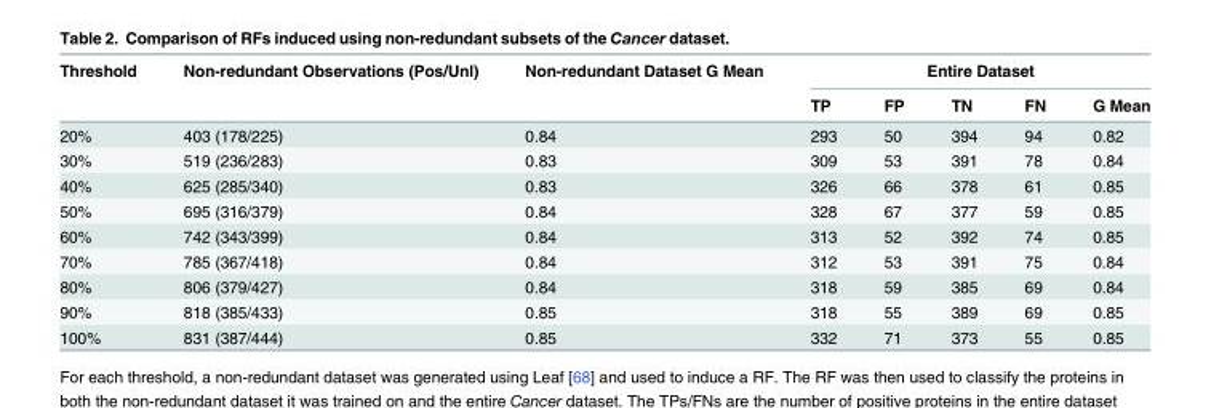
<table><thead><tr><td rowspan="2">Threshold</td><td rowspan="2">Non-redundant Observations (Pos/Unl)</td><td rowspan="2">Non-redundant Dataset G Mean</td><td colspan="5">Entire Dataset</td></tr><tr><td>TP</td><td>FP</td><td>TN</td><td>FN</td><td>G Mean</td></tr></thead><tbody><tr><td>20%</td><td>403 (178/225)</td><td>0.84</td><td>293</td><td>50</td><td>394</td><td>94</td><td>0.82</td></tr><tr><td>30%</td><td>519 (236/283)</td><td>0.83</td><td>309</td><td>53</td><td>391</td><td>78</td><td>0.84</td></tr><tr><td>40%</td><td>625 (285/340)</td><td>0.83</td><td>326</td><td>66</td><td>378</td><td>61</td><td>0.85</td></tr><tr><td>50%</td><td>695 (316/379)</td><td>0.84</td><td>328</td><td>67</td><td>377</td><td>59</td><td>0.85</td></tr><tr><td>60%</td><td>742 (343/399)</td><td>0.84</td><td>313</td><td>52</td><td>392</td><td>74</td><td>0.85</td></tr><tr><td>70%</td><td>785 (367/418)</td><td>0.84</td><td>312</td><td>53</td><td>391</td><td>75</td><td>0.84</td></tr><tr><td>80%</td><td>806 (379/427)</td><td>0.84</td><td>318</td><td>59</td><td>385</td><td>69</td><td>0.84</td></tr><tr><td>90%</td><td>818 (385/433)</td><td>0.85</td><td>318</td><td>55</td><td>389</td><td>69</td><td>0.85</td></tr><tr><td>100%</td><td>831 (387/444)</td><td>0.85</td><td>332</td><td>71</td><td>373</td><td>55</td><td>0.85</td></tr></tbody></table>